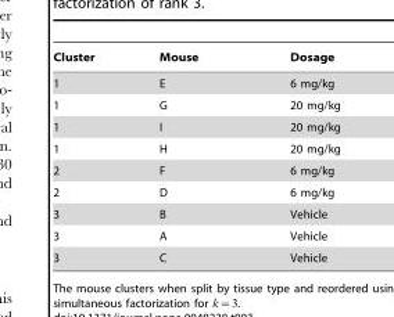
<table><thead><tr><td>Cluster</td><td>Mouse</td><td>Dosage</td></tr></thead><tbody><tr><td>1</td><td>E</td><td>6 mg/kg</td></tr><tr><td>1</td><td>G</td><td>20 mg/kg</td></tr><tr><td>1</td><td>I</td><td>20 mg/kg</td></tr><tr><td>1</td><td>H</td><td>20 mg/kg</td></tr><tr><td>2</td><td>F</td><td>6 mg/kg</td></tr><tr><td>2</td><td>D</td><td>6 mg/kg</td></tr><tr><td>3</td><td>B</td><td>Vehicle</td></tr><tr><td>3</td><td>A</td><td>Vehicle</td></tr><tr><td>3</td><td>C</td><td>Vehicle</td></tr></tbody></table>